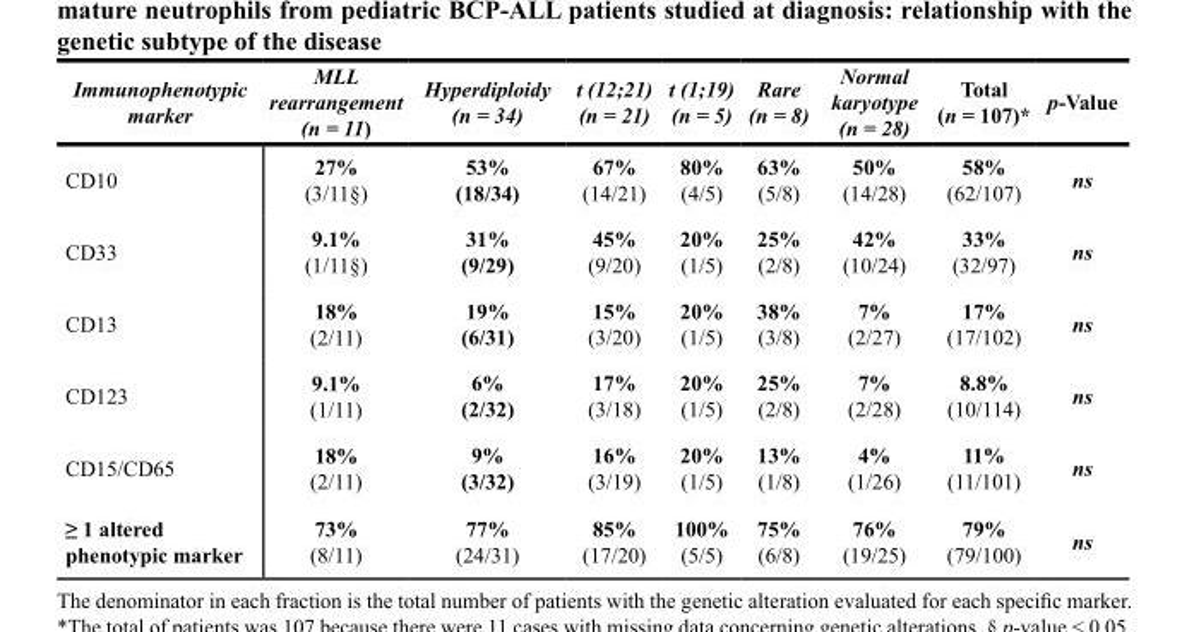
<table><thead><tr><td>Immunophenotypic marker</td><td>MLL rearrangement (n = 11)</td><td>Hyperdiploidy (n = 34)</td><td>t (12;21) (n = 21)</td><td>t (1;19) (n = 5)</td><td>Rare (n = 8)</td><td>Normal karyotype (n = 28)</td><td>Total (n = 107)*</td><td>p‑Value</td></tr></thead><tbody><tr><td>CD10</td><td>27% (3/11§)</td><td>53% (18/34)</td><td>67% (14/21)</td><td>80% (4/5)</td><td>63% (5/8)</td><td>50% (14/28)</td><td>58% (62/107)</td><td>ns</td></tr><tr><td>CD33</td><td>9.1% (1/11§)</td><td>31% (9/29)</td><td>45% (9/20)</td><td>20% (1/5)</td><td>25% (2/8)</td><td>42% (10/24)</td><td>33% (32/97)</td><td>ns</td></tr><tr><td>CD13</td><td>18% (2/11)</td><td>19% (6/31)</td><td>15% (3/20)</td><td>20% (1/5)</td><td>38% (3/8)</td><td>7% (2/27)</td><td>17% (17/102)</td><td>ns</td></tr><tr><td>CD123</td><td>9.1% (1/11)</td><td>6% (2/32)</td><td>17% (3/18)</td><td>20% (1/5)</td><td>25% (2/8)</td><td>7% (2/28)</td><td>8.8% (10/114)</td><td>ns</td></tr><tr><td>CD15/CD65</td><td>18% (2/11)</td><td>9% (3/32)</td><td>16% (3/19)</td><td>20% (1/5)</td><td>13% (1/8)</td><td>4% (1/26)</td><td>11% (11/101)</td><td>ns</td></tr><tr><td>≥ 1 altered phenotypic marker</td><td>73% (8/11)</td><td>77% (24/31)</td><td>85% (17/20)</td><td>100% (5/5)</td><td>75% (6/8)</td><td>76% (19/25)</td><td>79% (79/100)</td><td>ns</td></tr></tbody></table>